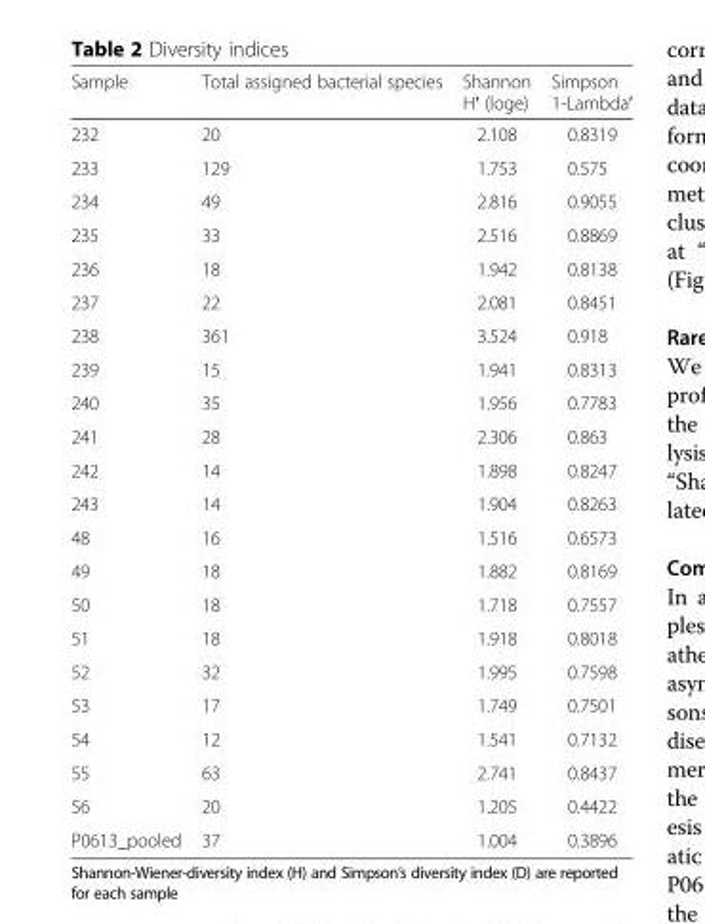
<table><thead><tr><td>Sample</td><td>Total assigned bacterial species</td><td>Shannon H′ (loge)</td><td>Simpson 1-Lambda′</td></tr></thead><tbody><tr><td>232</td><td>20</td><td>2.108</td><td>0.8319</td></tr><tr><td>233</td><td>129</td><td>1.753</td><td>0.575</td></tr><tr><td>234</td><td>49</td><td>2.816</td><td>0.9055</td></tr><tr><td>235</td><td>33</td><td>2.516</td><td>0.8869</td></tr><tr><td>236</td><td>18</td><td>1.942</td><td>0.8138</td></tr><tr><td>237</td><td>22</td><td>2.081</td><td>0.8451</td></tr><tr><td>238</td><td>361</td><td>3.524</td><td>0.918</td></tr><tr><td>239</td><td>15</td><td>1.941</td><td>0.8313</td></tr><tr><td>240</td><td>35</td><td>1.956</td><td>0.7783</td></tr><tr><td>241</td><td>28</td><td>2.306</td><td>0.863</td></tr><tr><td>242</td><td>14</td><td>1.898</td><td>0.8247</td></tr><tr><td>243</td><td>14</td><td>1.904</td><td>0.8263</td></tr><tr><td>48</td><td>16</td><td>1.516</td><td>0.6573</td></tr><tr><td>49</td><td>18</td><td>1.882</td><td>0.8169</td></tr><tr><td>50</td><td>18</td><td>1.718</td><td>0.7557</td></tr><tr><td>51</td><td>18</td><td>1.918</td><td>0.8018</td></tr><tr><td>52</td><td>32</td><td>1.995</td><td>0.7598</td></tr><tr><td>53</td><td>17</td><td>1.749</td><td>0.7501</td></tr><tr><td>54</td><td>12</td><td>1.541</td><td>0.7132</td></tr><tr><td>55</td><td>63</td><td>2.741</td><td>0.8437</td></tr><tr><td>56</td><td>20</td><td>1.205</td><td>0.4422</td></tr><tr><td>P0613_pooled</td><td>37</td><td>1.004</td><td>0.3896</td></tr></tbody></table>